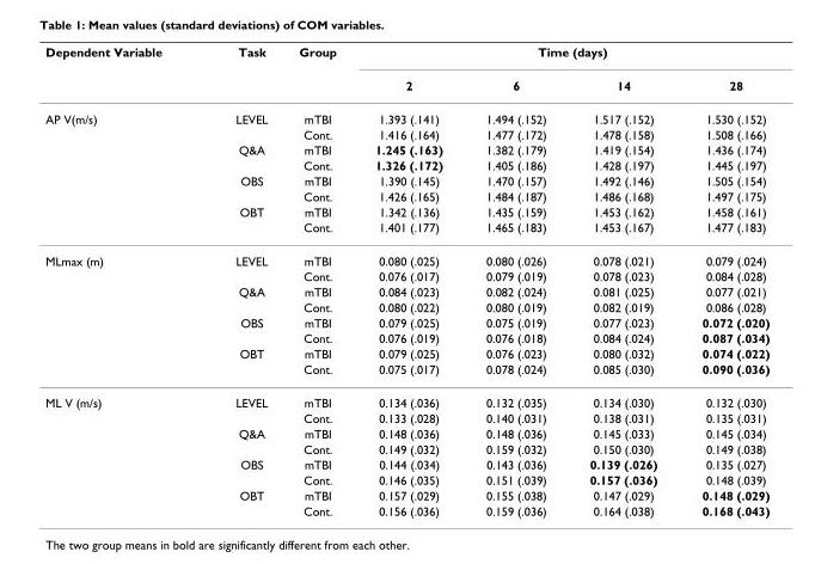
<table><thead><tr><td rowspan="2">Dependent Variable</td><td rowspan="2">Task</td><td rowspan="2">Group</td><td colspan="4">Time (days)</td></tr><tr><td>2</td><td>6</td><td>14</td><td>28</td></tr></thead><tbody><tr><td rowspan="8">AP V(m/s)</td><td>LEVEL</td><td>mTBI</td><td>1.393 (.141)</td><td>1.494 (.152)</td><td>1.517 (.152)</td><td>1.530 (.152)</td></tr><tr><td></td><td>Cont.</td><td>1.416 (.164)</td><td>1.477 (.172)</td><td>1.478 (.158)</td><td>1.508 (.166)</td></tr><tr><td>Q&amp;A</td><td>mTBI</td><td>1.245 (.163)</td><td>1.382 (.179)</td><td>1.419 (.154)</td><td>1.436 (.174)</td></tr><tr><td></td><td>Cont.</td><td>1.326 (.172)</td><td>1.405 (.186)</td><td>1.428 (.197)</td><td>1.445 (.197)</td></tr><tr><td>OBS</td><td>mTBI</td><td>1.390 (.145)</td><td>1.470 (.157)</td><td>1.492 (.146)</td><td>1.505 (.154)</td></tr><tr><td></td><td>Cont.</td><td>1.426 (.165)</td><td>1.484 (.187)</td><td>1.486 (.168)</td><td>1.497 (.175)</td></tr><tr><td>OBT</td><td>mTBI</td><td>1.342 (.136)</td><td>1.435 (.159)</td><td>1.453 (.162)</td><td>1.458 (.161)</td></tr><tr><td></td><td>Cont.</td><td>1.401 (.177)</td><td>1.465 (.183)</td><td>1.453 (.167)</td><td>1.477 (.183)</td></tr><tr><td rowspan="8">MLmax (m)</td><td>LEVEL</td><td>mTBI</td><td>0.080 (.025)</td><td>0.080 (.026)</td><td>0.078 (.021)</td><td>0.079 (.024)</td></tr><tr><td></td><td>Cont.</td><td>0.076 (.017)</td><td>0.079 (.019)</td><td>0.078 (.023)</td><td>0.084 (.028)</td></tr><tr><td>Q&amp;A</td><td>mTBI</td><td>0.084 (.023)</td><td>0.082 (.024)</td><td>0.081 (.025)</td><td>0.077 (.021)</td></tr><tr><td></td><td>Cont.</td><td>0.080 (.022)</td><td>0.080 (.019)</td><td>0.082 (.019)</td><td>0.086 (.028)</td></tr><tr><td>OBS</td><td>mTBI</td><td>0.079 (.025)</td><td>0.075 (.019)</td><td>0.077 (.023)</td><td>0.072 (.020)</td></tr><tr><td></td><td>Cont.</td><td>0.076 (.019)</td><td>0.076 (.018)</td><td>0.084 (.024)</td><td>0.087 (.034)</td></tr><tr><td>OBT</td><td>mTBI</td><td>0.079 (.025)</td><td>0.076 (.023)</td><td>0.080 (.032)</td><td>0.074 (.022)</td></tr><tr><td></td><td>Cont.</td><td>0.075 (.017)</td><td>0.078 (.024)</td><td>0.085 (.030)</td><td>0.090 (.036)</td></tr><tr><td rowspan="8">ML V (m/s)</td><td>LEVEL</td><td>mTBI</td><td>0.134 (.036)</td><td>0.132 (.035)</td><td>0.134 (.030)</td><td>0.132 (.030)</td></tr><tr><td></td><td>Cont.</td><td>0.133 (.028)</td><td>0.140 (.031)</td><td>0.138 (.031)</td><td>0.135 (.031)</td></tr><tr><td>Q&amp;A</td><td>mTBI</td><td>0.148 (.036)</td><td>0.148 (.036)</td><td>0.145 (.033)</td><td>0.145 (.034)</td></tr><tr><td></td><td>Cont.</td><td>0.149 (.032)</td><td>0.159 (.032)</td><td>0.150 (.030)</td><td>0.149 (.038)</td></tr><tr><td>OBS</td><td>mTBI</td><td>0.144 (.034)</td><td>0.143 (.036)</td><td>0.139 (.026)</td><td>0.135 (.027)</td></tr><tr><td></td><td>Cont.</td><td>0.146 (.035)</td><td>0.151 (.039)</td><td>0.157 (.036)</td><td>0.148 (.039)</td></tr><tr><td>OBT</td><td>mTBI</td><td>0.157 (.029)</td><td>0.155 (.038)</td><td>0.147 (.029)</td><td>0.148 (.029)</td></tr><tr><td></td><td>Cont.</td><td>0.156 (.036)</td><td>0.159 (.036)</td><td>0.164 (.038)</td><td>0.168 (.043)</td></tr></tbody></table>